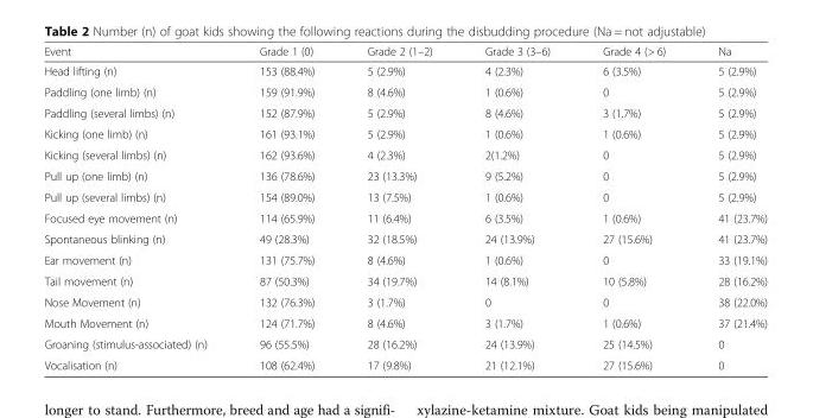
<table><thead><tr><td>Event</td><td>Grade 1 (0)</td><td>Grade 2 (1–2)</td><td>Grade 3 (3–6)</td><td>Grade 4 (&gt; 6)</td><td>Na</td></tr></thead><tbody><tr><td>Head lifting (n)</td><td>153 (88.4%)</td><td>5 (2.9%)</td><td>4 (2.3%)</td><td>6 (3.5%)</td><td>5 (2.9%)</td></tr><tr><td>Paddling (one limb) (n)</td><td>159 (91.9%)</td><td>8 (4.6%)</td><td>1 (0.6%)</td><td>0</td><td>5 (2.9%)</td></tr><tr><td>Paddling (several limbs) (n)</td><td>152 (87.9%)</td><td>5 (2.9%)</td><td>8 (4.6%)</td><td>3 (1.7%)</td><td>5 (2.9%)</td></tr><tr><td>Kicking (one limb) (n)</td><td>161 (93.1%)</td><td>5 (2.9%)</td><td>1 (0.6%)</td><td>1 (0.6%)</td><td>5 (2.9%)</td></tr><tr><td>Kicking (several limbs) (n)</td><td>162 (93.6%)</td><td>4 (2.3%)</td><td>2(1.2%)</td><td>0</td><td>5 (2.9%)</td></tr><tr><td>Pull up (one limb) (n)</td><td>136 (78.6%)</td><td>23 (13.3%)</td><td>9 (5.2%)</td><td>0</td><td>5 (2.9%)</td></tr><tr><td>Pull up (several limbs) (n)</td><td>154 (89.0%)</td><td>13 (7.5%)</td><td>1 (0.6%)</td><td>0</td><td>5 (2.9%)</td></tr><tr><td>Focused eye movement (n)</td><td>114 (65.9%)</td><td>11 (6.4%)</td><td>6 (3.5%)</td><td>1 (0.6%)</td><td>41 (23.7%)</td></tr><tr><td>Spontaneous blinking (n)</td><td>49 (28.3%)</td><td>32 (18.5%)</td><td>24 (13.9%)</td><td>27 (15.6%)</td><td>41 (23.7%)</td></tr><tr><td>Ear movement (n)</td><td>131 (75.7%)</td><td>8 (4.6%)</td><td>1 (0.6%)</td><td>0</td><td>33 (19.1%)</td></tr><tr><td>Tail movement (n)</td><td>87 (50.3%)</td><td>34 (19.7%)</td><td>14 (8.1%)</td><td>10 (5.8%)</td><td>28 (16.2%)</td></tr><tr><td>Nose Movement (n)</td><td>132 (76.3%)</td><td>3 (1.7%)</td><td>0</td><td>0</td><td>38 (22.0%)</td></tr><tr><td>Mouth Movement (n)</td><td>124 (71.7%)</td><td>8 (4.6%)</td><td>3 (1.7%)</td><td>1 (0.6%)</td><td>37 (21.4%)</td></tr><tr><td>Groaning (stimulus-associated) (n)</td><td>96 (55.5%)</td><td>28 (16.2%)</td><td>24 (13.9%)</td><td>25 (14.5%)</td><td>0</td></tr><tr><td>Vocalisation (n)</td><td>108 (62.4%)</td><td>17 (9.8%)</td><td>21 (12.1%)</td><td>27 (15.6%)</td><td>0</td></tr></tbody></table>